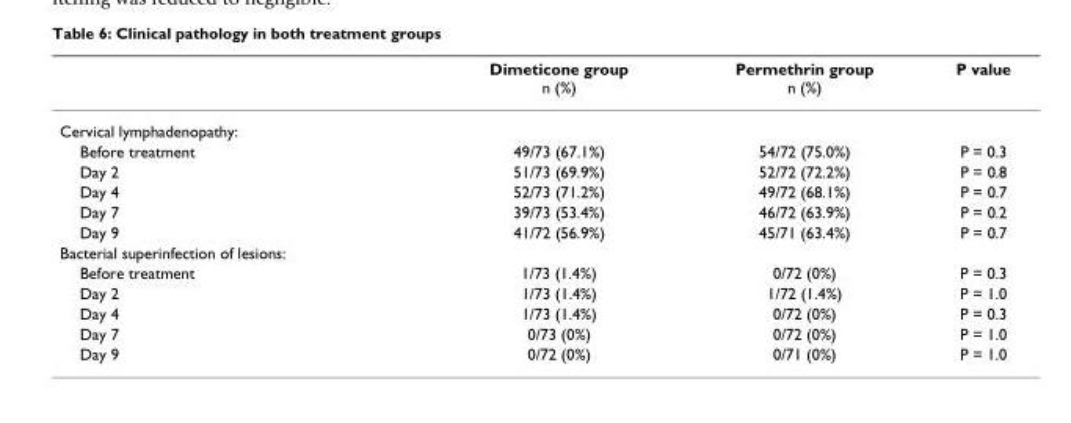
<table><thead><tr><td></td><td>Dimeticone group n (%)</td><td>Permethrin group n (%)</td><td>P value</td></tr></thead><tbody><tr><td colspan="4">Cervical lymphadenopathy:</td></tr><tr><td>Before treatment</td><td>49/73 (67.1%)</td><td>54/72 (75.0%)</td><td>P = 0.3</td></tr><tr><td>Day 2</td><td>51/73 (69.9%)</td><td>52/72 (72.2%)</td><td>P = 0.8</td></tr><tr><td>Day 4</td><td>52/73 (71.2%)</td><td>49/72 (68.1%)</td><td>P = 0.7</td></tr><tr><td>Day 7</td><td>39/73 (53.4%)</td><td>46/72 (63.9%)</td><td>P = 0.2</td></tr><tr><td>Day 9</td><td>41/72 (56.9%)</td><td>45/71 (63.4%)</td><td>P = 0.7</td></tr><tr><td colspan="4">Bacterial superinfection of lesions:</td></tr><tr><td>Before treatment</td><td>1/73 (1.4%)</td><td>0/72 (0%)</td><td>P = 0.3</td></tr><tr><td>Day 2</td><td>1/73 (1.4%)</td><td>1/72 (1.4%)</td><td>P = 1.0</td></tr><tr><td>Day 4</td><td>1/73 (1.4%)</td><td>0/72 (0%)</td><td>P = 0.3</td></tr><tr><td>Day 7</td><td>0/73 (0%)</td><td>0/72 (0%)</td><td>P = 1.0</td></tr><tr><td>Day 9</td><td>0/72 (0%)</td><td>0/71 (0%)</td><td>P = 1.0</td></tr></tbody></table>